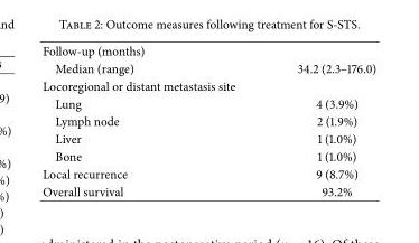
<table><tbody><tr><td colspan="2">Follow-up (months)</td></tr><tr><td>Median (range)</td><td>34.2 (2.3–176.0)</td></tr><tr><td colspan="2">Locoregional or distant metastasis site</td></tr><tr><td>Lung</td><td>4 (3.9%)</td></tr><tr><td>Lymph node</td><td>2 (1.9%)</td></tr><tr><td>Liver</td><td>1 (1.0%)</td></tr><tr><td>Bone</td><td>1 (1.0%)</td></tr><tr><td>Local recurrence</td><td>9 (8.7%)</td></tr><tr><td>Overall survival</td><td>93.2%</td></tr></tbody></table>